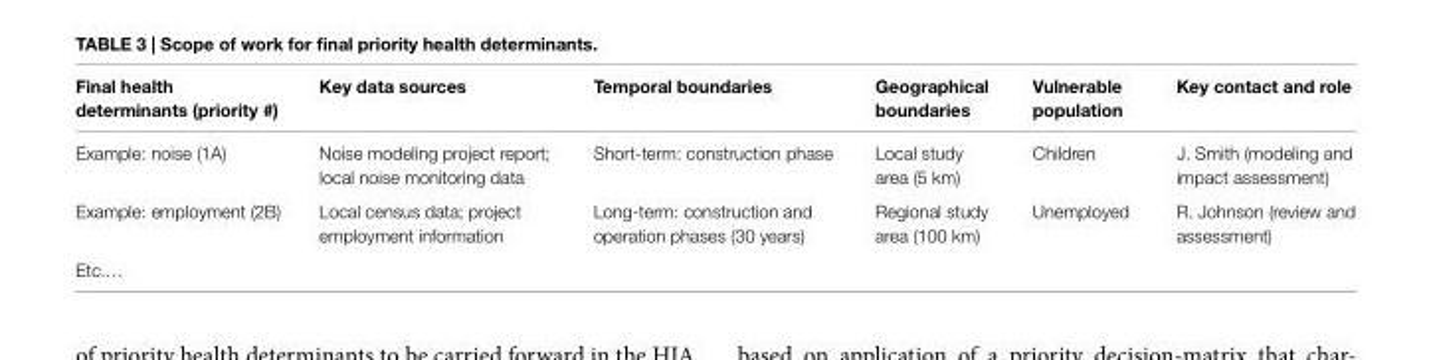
<table><thead><tr><td>Final health determinants (priority #)</td><td>Key data sources</td><td>Temporal boundaries</td><td>geographical boundaries</td><td>Vulnerable population</td><td>Key contact and role</td></tr></thead><tbody><tr><td>Example: noise (1A)</td><td>Noise modeling project report; local noise monitoring data</td><td>Short-term: construction phase</td><td>Local study area (5 km)</td><td>Children</td><td>J. Smith (modeling and impact assessment)</td></tr><tr><td>Example: employment (2B)</td><td>Local census data; project employment information</td><td>Long-term: construction and operation phases (30 years)</td><td>Regional study area (100 km)</td><td>Unemployed</td><td>R. Johnson (review and assessment)</td></tr><tr><td>Etc.…</td><td></td><td></td><td></td><td></td><td></td></tr></tbody></table>